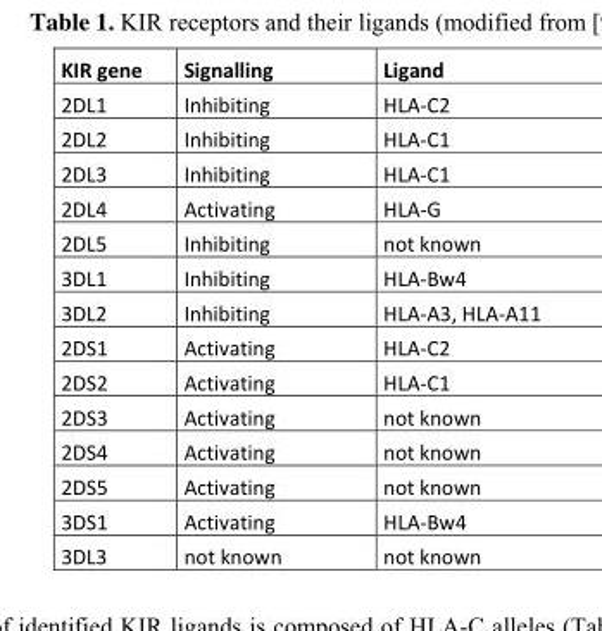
<table><thead><tr><td>KIR gene</td><td>Signalling</td><td>Ligand</td></tr></thead><tbody><tr><td>2DL1</td><td>Inhibiting</td><td>HLA‐C2</td></tr><tr><td>2DL2</td><td>Inhibiting</td><td>HLA‐C1</td></tr><tr><td>2DL3</td><td>Inhibiting</td><td>HLA‐C1</td></tr><tr><td>2DL4</td><td>Activating</td><td>HLA‐G</td></tr><tr><td>2DL5</td><td>Inhibiting</td><td>not known</td></tr><tr><td>3DL1</td><td>Inhibiting</td><td>HLA‐Bw4</td></tr><tr><td>3DL2</td><td>Inhibiting</td><td>HLA‐A3, HLA‐A11</td></tr><tr><td>2DS1</td><td>Activating</td><td>HLA‐C2</td></tr><tr><td>2DS2</td><td>Activating</td><td>HLA‐C1</td></tr><tr><td>2DS3</td><td>Activating</td><td>not known</td></tr><tr><td>2DS4</td><td>Activating</td><td>not known</td></tr><tr><td>2DS5</td><td>Activating</td><td>not known</td></tr><tr><td>3DS1</td><td>Activating</td><td>HLA‐Bw4</td></tr><tr><td>3DL3</td><td>not known</td><td>not known</td></tr></tbody></table>